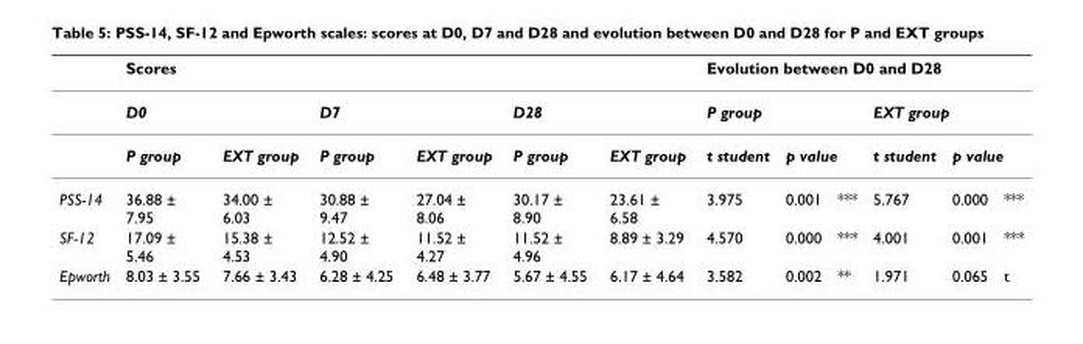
<table><thead><tr><td rowspan="4">PSS-14</td><td colspan="6">Scores</td><td colspan="6">Evolution between D0 and D28</td></tr><tr><td rowspan="3">D0 P group 36.88 ± 7.95</td><td rowspan="3">EXT group 34.00 ± 6.03</td><td rowspan="3">D7 P group 30.88 ± 9.47</td><td rowspan="3">EXT group 27.04 ± 8.06</td><td rowspan="3">D28 P group 30.17 ± 8.90</td><td rowspan="3">EXT group 23.61 ± 6.58</td><td rowspan="3">P group t student 3.975</td><td></td><td></td><td colspan="2">EXT group</td><td></td></tr><tr><td colspan="2">p value</td><td rowspan="2">t student 5.767</td><td colspan="2">p value</td></tr><tr><td>0.001</td><td>***</td><td>0.000</td><td>***</td></tr></thead><tbody><tr><td>SF-12</td><td>17.09 ± 5.46</td><td>15.38 ± 4.53</td><td>12.52 ± 4.90</td><td>11.52 ± 4.27</td><td>11.52 ± 4.96</td><td>8.89 ± 3.29</td><td>4.570</td><td>0.000</td><td>***</td><td>4.001</td><td>0.001</td><td>***</td></tr><tr><td>Epworth</td><td>8.03 ± 3.55</td><td>7.66 ± 3.43</td><td>6.28 ± 4.25</td><td>6.48 ± 3.77</td><td>5.67 ± 4.55</td><td>6.17 ± 4.64</td><td>3.582</td><td>0.002</td><td>**</td><td>1.971</td><td>0.065</td><td>t</td></tr></tbody></table>